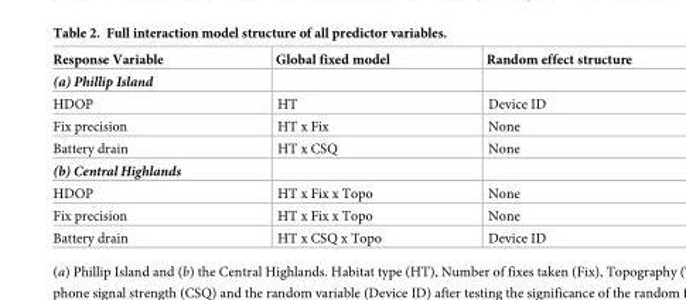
<table><thead><tr><td>Response Variable</td><td>Global fixed model</td><td>Random effect structure</td></tr></thead><tbody><tr><td colspan="3">(a) Phillip Island</td></tr><tr><td>HDOP</td><td>HT</td><td>Device ID</td></tr><tr><td>Fix precision</td><td>HT x Fix</td><td>None</td></tr><tr><td>Battery drain</td><td>HT x CSQ</td><td>None</td></tr><tr><td colspan="3">(b) Central Highlands</td></tr><tr><td>HDOP</td><td>HT x Fix x Topo</td><td>None</td></tr><tr><td>Fix precision</td><td>HT x Fix x Topo</td><td>None</td></tr><tr><td>Battery drain</td><td>HT x CSQ x Topo</td><td>Device ID</td></tr></tbody></table>